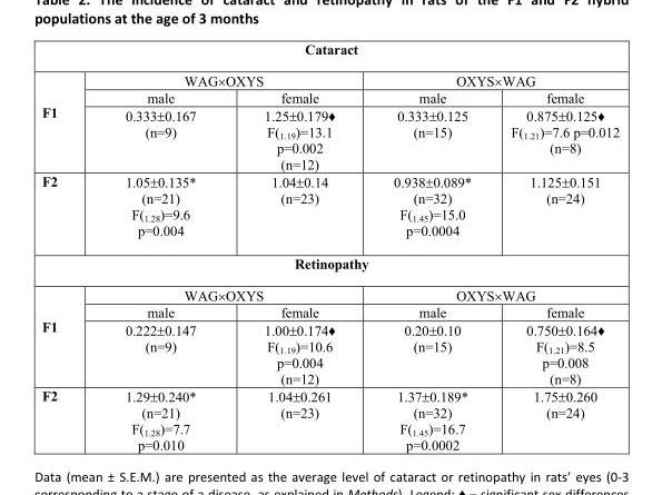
<table><tbody><tr><td colspan="5">Cataract</td></tr><tr><td rowspan="3">F1</td><td colspan="2">WAG×OXYS</td><td colspan="2">OXYS×WAG</td></tr><tr><td>male</td><td>female</td><td>male</td><td>female</td></tr><tr><td>0.333±0.167 (n=9)</td><td>1.25±0.179♦ F(<sub>1.19</sub>)=13.1 p=0.002 (n=12)</td><td>0.333±0.125 (n=15)</td><td>0.875±0.125♦ F(<sub>1.21</sub>)=7.6 p=0.012 (n=8)</td></tr><tr><td>F2</td><td>1.05±0.135* (n=21) F(<sub>1.28</sub>)=9.6 p=0.004</td><td>1.04±0.14 (n=23)</td><td>0.938±0.089* (n=32) F(<sub>1.45</sub>)=15.0 p=0.0004</td><td>1.125±0.151 (n=24)</td></tr><tr><td colspan="5">Retinopathy</td></tr><tr><td rowspan="3">F1</td><td colspan="2">WAG×OXYS</td><td colspan="2">OXYS×WAG</td></tr><tr><td>male</td><td>female</td><td>male</td><td>female</td></tr><tr><td>0.222±0.147 (n=9)</td><td>1.00±0.174♦ F(<sub>1.19</sub>)=10.6 p=0.004 (n=12)</td><td>0.20±0.10 (n=15)</td><td>0.750±0.164♦ F(<sub>1.21</sub>)=8.5 p=0.008 (n=8)</td></tr><tr><td>F2</td><td>1.29±0.240* (n=21) F(<sub>1.28</sub>)=7.7 p=0.010</td><td>1.04±0.261 (n=23)</td><td>1.37±0.189* (n=32) F(<sub>1.45</sub>)=16.7 p=0.0002</td><td>1.75±0.260 (n=24)</td></tr></tbody></table>